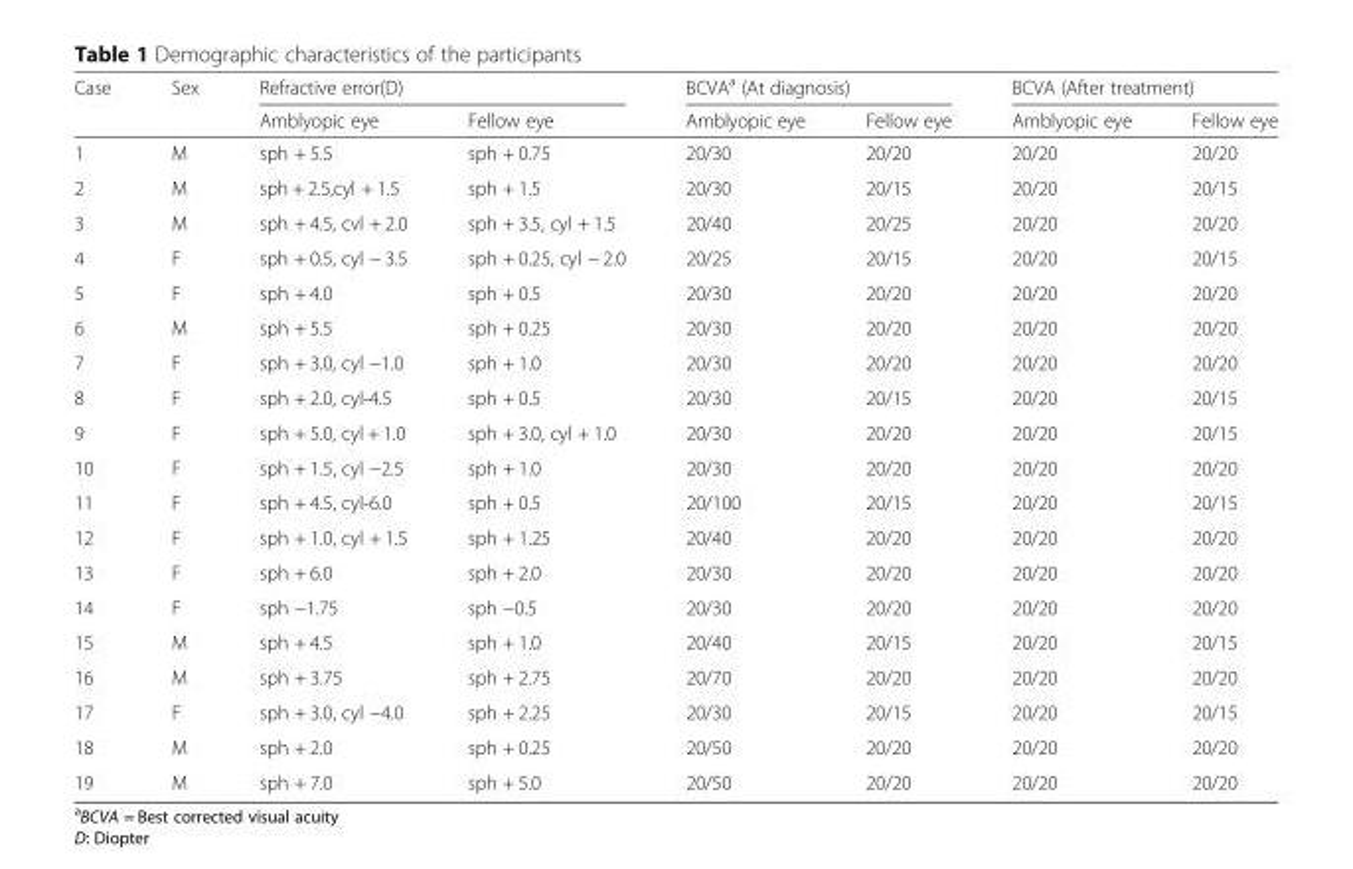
<table><thead><tr><td rowspan="2">Case</td><td rowspan="2">Sex</td><td colspan="2">Refractive error(D)</td><td colspan="2">BCVA<sup>a</sup> (At diagnosis)</td><td colspan="2">BCVA (After treatment)</td></tr><tr><td>Amblyopic eye</td><td>Fellow eye</td><td>Amblyopic eye</td><td>Fellow eye</td><td>Amblyopic eye</td><td>Fellow eye</td></tr></thead><tbody><tr><td>1</td><td>M</td><td>sph + 5.5</td><td>sph + 0.75</td><td>20/30</td><td>20/20</td><td>20/20</td><td>20/20</td></tr><tr><td>2</td><td>M</td><td>sph + 2.5,cyl + 1.5</td><td>sph + 1.5</td><td>20/30</td><td>20/15</td><td>20/20</td><td>20/15</td></tr><tr><td>3</td><td>M</td><td>sph + 4.5, cvl + 2.0</td><td>sph + 3.5, cyl + 1.5</td><td>20/40</td><td>20/25</td><td>20/20</td><td>20/20</td></tr><tr><td>4</td><td>F</td><td>sph + 0.5, cyl − 3.5</td><td>sph + 0.25, cyl − 2.0</td><td>20/25</td><td>20/15</td><td>20/20</td><td>20/15</td></tr><tr><td>5</td><td>F</td><td>sph + 4.0</td><td>sph + 0.5</td><td>20/30</td><td>20/20</td><td>20/20</td><td>20/20</td></tr><tr><td>6</td><td>M</td><td>sph + 5.5</td><td>sph + 0.25</td><td>20/30</td><td>20/20</td><td>20/20</td><td>20/20</td></tr><tr><td>7</td><td>F</td><td>sph + 3.0, cyl −1.0</td><td>sph + 1.0</td><td>20/30</td><td>20/20</td><td>20/20</td><td>20/20</td></tr><tr><td>8</td><td>F</td><td>sph + 2.0, cyl-4.5</td><td>sph + 0.5</td><td>20/30</td><td>20/15</td><td>20/20</td><td>20/15</td></tr><tr><td>9</td><td>F</td><td>sph + 5.0, cyl + 1.0</td><td>sph + 3.0, cyl + 1.0</td><td>20/30</td><td>20/20</td><td>20/20</td><td>20/15</td></tr><tr><td>10</td><td>F</td><td>sph + 1.5, cyl −2.5</td><td>sph + 1.0</td><td>20/30</td><td>20/20</td><td>20/20</td><td>20/20</td></tr><tr><td>11</td><td>F</td><td>sph + 4.5, cyl-6.0</td><td>sph + 0.5</td><td>20/100</td><td>20/15</td><td>20/20</td><td>20/15</td></tr><tr><td>12</td><td>F</td><td>sph + 1.0, cyl + 1.5</td><td>sph + 1.25</td><td>20/40</td><td>20/20</td><td>20/20</td><td>20/20</td></tr><tr><td>13</td><td>F</td><td>sph + 6.0</td><td>sph + 2.0</td><td>20/30</td><td>20/20</td><td>20/20</td><td>20/20</td></tr><tr><td>14</td><td>F</td><td>sph −1.75</td><td>sph −0.5</td><td>20/30</td><td>20/20</td><td>20/20</td><td>20/20</td></tr><tr><td>15</td><td>M</td><td>sph + 4.5</td><td>sph + 1.0</td><td>20/40</td><td>20/15</td><td>20/20</td><td>20/15</td></tr><tr><td>16</td><td>M</td><td>sph + 3.75</td><td>sph + 2.75</td><td>20/70</td><td>20/20</td><td>20/20</td><td>20/20</td></tr><tr><td>17</td><td>F</td><td>sph + 3.0, cyl −4.0</td><td>sph + 2.25</td><td>20/30</td><td>20/15</td><td>20/20</td><td>20/15</td></tr><tr><td>18</td><td>M</td><td>sph + 2.0</td><td>sph + 0.25</td><td>20/50</td><td>20/20</td><td>20/20</td><td>20/20</td></tr><tr><td>19</td><td>M</td><td>sph + 7.0</td><td>sph + 5.0</td><td>20/50</td><td>20/20</td><td>20/20</td><td>20/20</td></tr></tbody></table>